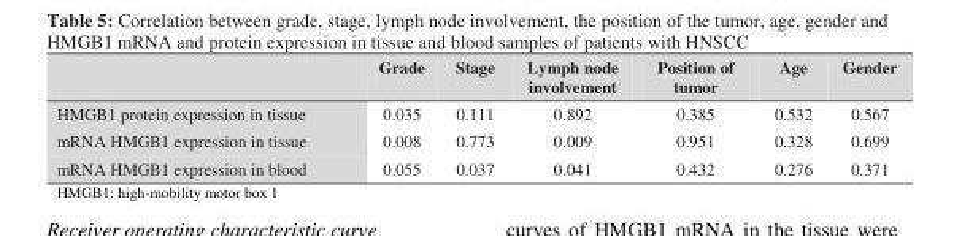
<table><thead><tr><td></td><td>Grade</td><td>Stage</td><td>Lymph node involvement</td><td>Position of tumor</td><td>Age</td><td>Gender</td></tr></thead><tbody><tr><td>HMGB1 protein expression in tissue</td><td>0.035</td><td>0.111</td><td>0.892</td><td>0.385</td><td>0.532</td><td>0.567</td></tr><tr><td>mRNA HMGB1 expression in tissue</td><td>0.008</td><td>0.773</td><td>0.009</td><td>0.951</td><td>0.328</td><td>0.699</td></tr><tr><td>mRNA HMGB1 expression in blood</td><td>0.055</td><td>0.037</td><td>0.041</td><td>0.432</td><td>0.276</td><td>0.371</td></tr></tbody></table>